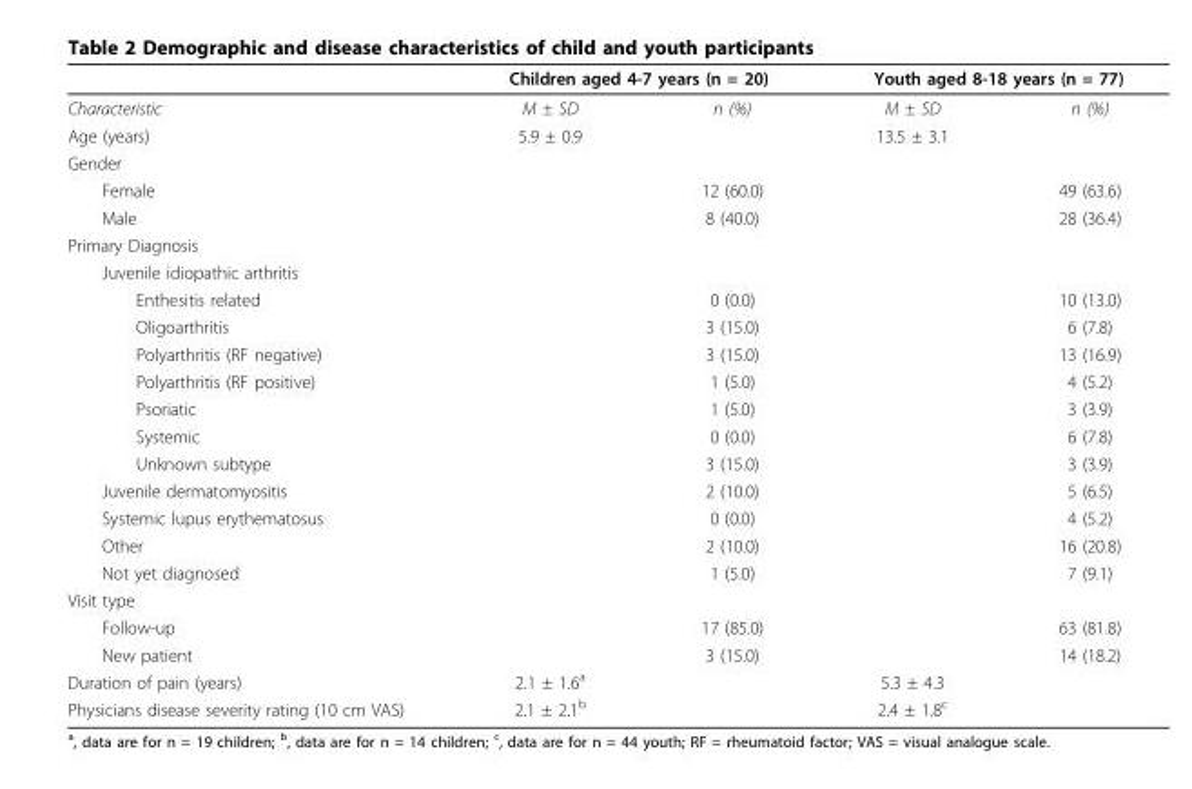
<table><thead><tr><td rowspan="2">Characteristic</td><td colspan="2">Children aged 4-7 years (n = 20)</td><td colspan="2">Youth aged 8-18 years (n = 77)</td></tr><tr><td>M ± SD</td><td>n (%)</td><td>M ± SD</td><td>n (%)</td></tr></thead><tbody><tr><td>Age (years)</td><td>5.9 ± 0.9</td><td></td><td>13.5 ± 3.1</td><td></td></tr><tr><td colspan="5">Gender</td></tr><tr><td>Female</td><td></td><td>12 (60.0)</td><td></td><td>49 (63.6)</td></tr><tr><td>Male</td><td></td><td>8 (40.0)</td><td></td><td>28 (36.4)</td></tr><tr><td colspan="5">Primary Diagnosis</td></tr><tr><td colspan="5">Juvenile idiopathic arthritis</td></tr><tr><td>Enthesitis related</td><td></td><td>0 (0.0)</td><td></td><td>10 (13.0)</td></tr><tr><td>Oligoarthritis</td><td></td><td>3 (15.0)</td><td></td><td>6 (7.8)</td></tr><tr><td>Polyarthritis (RF negative)</td><td></td><td>3 (15.0)</td><td></td><td>13 (16.9)</td></tr><tr><td>Polyarthritis (RF positive)</td><td></td><td>1 (5.0)</td><td></td><td>4 (5.2)</td></tr><tr><td>Psoriatic</td><td></td><td>1 (5.0)</td><td></td><td>3 (3.9)</td></tr><tr><td>Systemic</td><td></td><td>0 (0.0)</td><td></td><td>6 (7.8)</td></tr><tr><td>Unknown subtype</td><td></td><td>3 (15.0)</td><td></td><td>3 (3.9)</td></tr><tr><td>Juvenile dermatomyositis</td><td></td><td>2 (10.0)</td><td></td><td>5 (6.5)</td></tr><tr><td>Systemic lupus erythematosus</td><td></td><td>0 (0.0)</td><td></td><td>4 (5.2)</td></tr><tr><td>Other</td><td></td><td>2 (10.0)</td><td></td><td>16 (20.8)</td></tr><tr><td>Not yet diagnosed</td><td></td><td>1 (5.0)</td><td></td><td>7 (9.1)</td></tr><tr><td colspan="5">Visit type</td></tr><tr><td>Follow-up</td><td></td><td>17 (85.0)</td><td></td><td>63 (81.8)</td></tr><tr><td>New patient</td><td></td><td>3 (15.0)</td><td></td><td>14 (18.2)</td></tr><tr><td>Duration of pain (years)</td><td>2.1 ± 1.6<sup>a</sup></td><td></td><td>5.3 ± 4.3</td><td></td></tr><tr><td>Physicians disease severity rating (10 cm VAS)</td><td>2.1 ± 2.1<sup>b</sup></td><td></td><td>2.4 ± 1.8<sup>c</sup></td><td></td></tr></tbody></table>